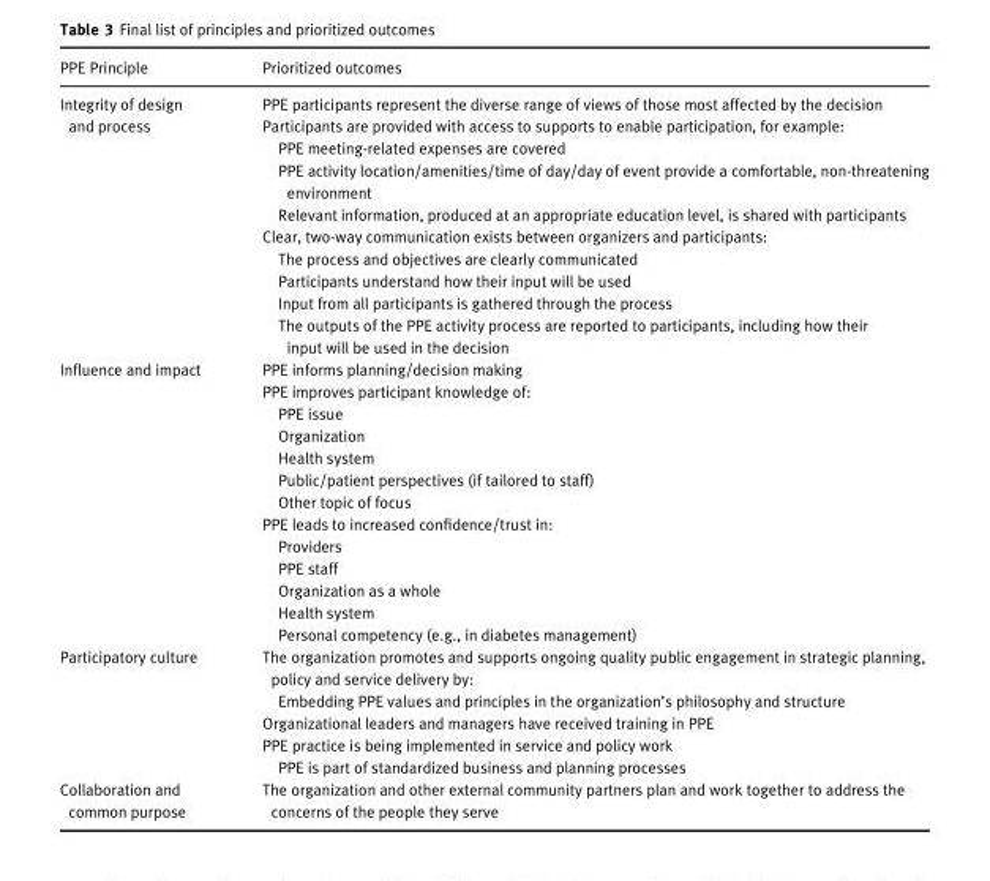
<table><thead><tr><td>PPE Principle</td><td>Prioritized outcomes</td></tr></thead><tbody><tr><td rowspan="10">Integrity of design and process</td><td>PPE participants represent the diverse range of views of those most affected by the decision</td></tr><tr><td>Participants are provided with access to supports to enable participation, for example:</td></tr><tr><td>PPE meeting-related expenses are covered</td></tr><tr><td>PPE activity location/amenities/time of day/day of event provide a comfortable, non-threatening environment</td></tr><tr><td>Relevant information, produced at an appropriate education level, is shared with participants</td></tr><tr><td>Clear, two-way communication exists between organizers and participants:</td></tr><tr><td>The process and objectives are clearly communicated</td></tr><tr><td>Participants understand how their input will be used</td></tr><tr><td>Input from all participants is gathered through the process</td></tr><tr><td>The outputs of the PPE activity process are reported to participants, including how their input will be used in the decision</td></tr><tr><td rowspan="13">Influence and impact</td><td>PPE informs planning/decision making</td></tr><tr><td>PPE improves participant knowledge of:</td></tr><tr><td>PPE issue</td></tr><tr><td>Organization</td></tr><tr><td>Health system</td></tr><tr><td>Public/patient perspectives (if tailored to staff)</td></tr><tr><td>Other topic of focus</td></tr><tr><td>PPE leads to increased confidence/trust in:</td></tr><tr><td>Providers</td></tr><tr><td>PPE staff</td></tr><tr><td>Organization as a whole</td></tr><tr><td>Health system</td></tr><tr><td>Personal competency (e.g., in diabetes management)</td></tr><tr><td rowspan="5">Participatory culture</td><td>The organization promotes and supports ongoing quality public engagement in strategic planning, policy and service delivery by:</td></tr><tr><td>Embedding PPE values and principles in the organization’s philosophy and structure</td></tr><tr><td>Organizational leaders and managers have received training in PPE</td></tr><tr><td>PPE practice is being implemented in service and policy work</td></tr><tr><td>PPE is part of standardized business and planning processes</td></tr><tr><td>Collaboration and common purpose</td><td>The organization and other external community partners plan and work together to address the concerns of the people they serve</td></tr></tbody></table>